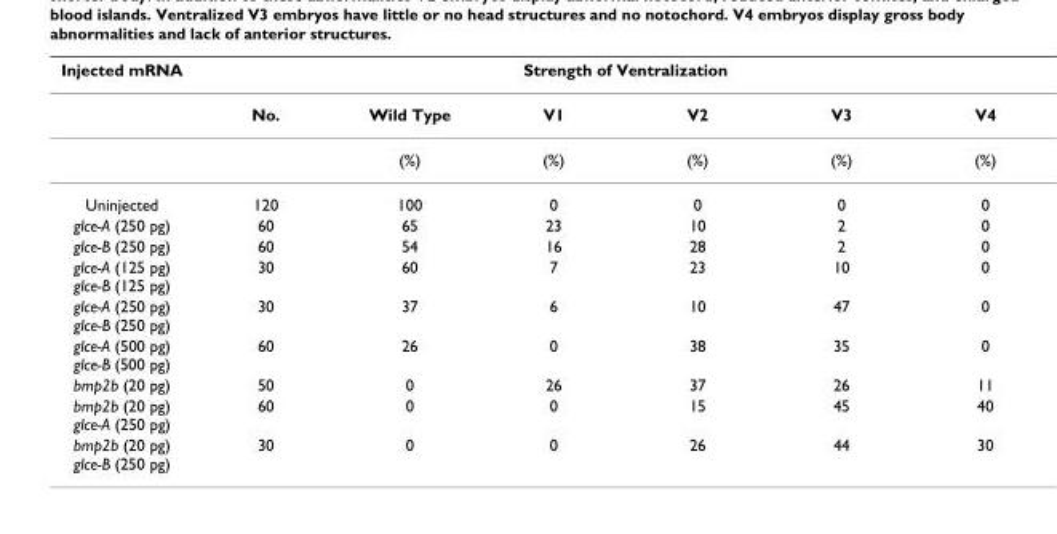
<table><thead><tr><td rowspan="2">Injected mRNA</td><td colspan="6">Strength of Ventralization</td></tr><tr><td>No.</td><td>Wild Type</td><td>V1</td><td>V2</td><td>V3</td><td>V4</td></tr></thead><tbody><tr><td></td><td></td><td>(%)</td><td>(%)</td><td>(%)</td><td>(%)</td><td>(%)</td></tr><tr><td>Uninjected</td><td>120</td><td>100</td><td>0</td><td>0</td><td>0</td><td>0</td></tr><tr><td>glce-A (250 pg)</td><td>60</td><td>65</td><td>23</td><td>10</td><td>2</td><td>0</td></tr><tr><td>glce-B (250 pg)</td><td>60</td><td>54</td><td>16</td><td>28</td><td>2</td><td>0</td></tr><tr><td>glce-A (125 pg) glce-B (125 pg)</td><td>30</td><td>60</td><td>7</td><td>23</td><td>10</td><td>0</td></tr><tr><td>glce-A (250 pg) glce-B (250 pg)</td><td>30</td><td>37</td><td>6</td><td>10</td><td>47</td><td>0</td></tr><tr><td>glce-A (500 pg) glce-B (500 pg)</td><td>60</td><td>26</td><td>0</td><td>38</td><td>35</td><td>0</td></tr><tr><td>bmp2b (20 pg)</td><td>50</td><td>0</td><td>26</td><td>37</td><td>26</td><td>11</td></tr><tr><td>bmp2b (20 pg) glce-A (250 pg)</td><td>60</td><td>0</td><td>0</td><td>15</td><td>45</td><td>40</td></tr><tr><td>bmp2b (20 pg) glce-B (250 pg)</td><td>30</td><td>0</td><td>0</td><td>26</td><td>44</td><td>30</td></tr></tbody></table>